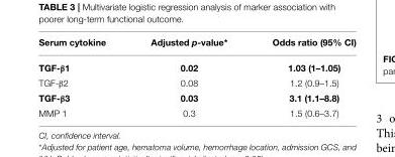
<table><thead><tr><td>Serum cytokine</td><td>Adjusted p-value*</td><td>Odds ratio (95% CI)</td></tr></thead><tbody><tr><td>TGF-β1</td><td>0.02</td><td>1.03 (1–1.05)</td></tr><tr><td>TGF-β2</td><td>0.08</td><td>1.2 (0.9–1.5)</td></tr><tr><td>TGF-β3</td><td>0.03</td><td>3.1 (1.1–8.8)</td></tr><tr><td>MMP 1</td><td>0.3</td><td>1.5 (0.6–3.7)</td></tr></tbody></table>